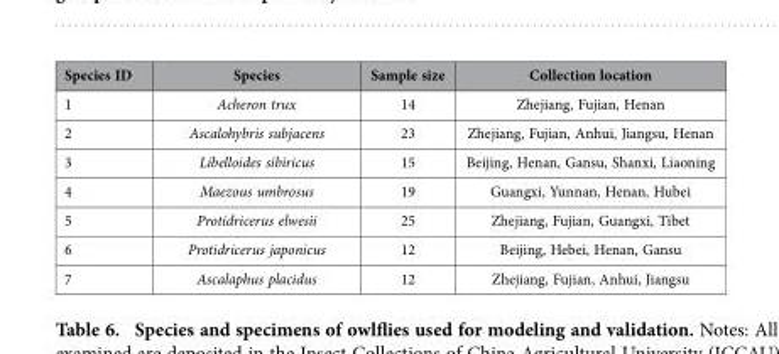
<table><thead><tr><td>Species ID</td><td>Species</td><td>Sample size</td><td>Collection location</td></tr></thead><tbody><tr><td>1</td><td>Acheron trux</td><td>14</td><td>Zhejiang, Fujian, Henan</td></tr><tr><td>2</td><td>Ascalohybris subjacens</td><td>23</td><td>Zhejiang, Fujian, Anhui, Jiangsu, Henan</td></tr><tr><td>3</td><td>Libelloides sibiricus</td><td>15</td><td>Beijing, Henan, Gansu, Shanxi, Liaoning</td></tr><tr><td>4</td><td>Maezous umbrosus</td><td>19</td><td>Guangxi, Yunnan, Henan, Hubei</td></tr><tr><td>5</td><td>Protidricerus elwesii</td><td>25</td><td>Zhejiang, Fujian, Guangxi, Tibet</td></tr><tr><td>6</td><td>Protidricerus japonicus</td><td>12</td><td>Beijing, Hebei, Henan, Gansu</td></tr><tr><td>7</td><td>Ascalaphus placidus</td><td>12</td><td>Zhejiang, Fujian, Anhui, Jiangsu</td></tr></tbody></table>